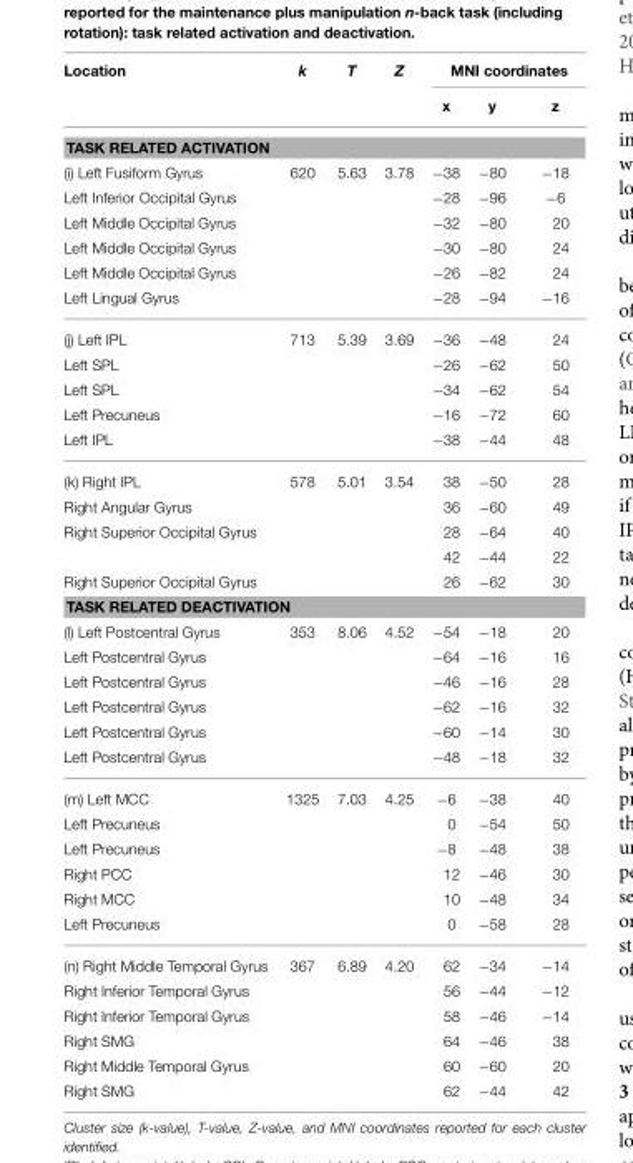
<table><thead><tr><td rowspan="2">Location</td><td rowspan="2">k</td><td rowspan="2">T</td><td rowspan="2">Z</td><td colspan="3">MNI coordinates</td></tr><tr><td>x</td><td>y</td><td>z</td></tr></thead><tbody><tr><td colspan="7">TASK RELATED ACTIVATION</td></tr><tr><td>(i) Left Fusiform Gyrus</td><td>620</td><td>5.63</td><td>3.78</td><td>−38</td><td>−80</td><td>−18</td></tr><tr><td>Left Inferior Occipital Gyrus</td><td></td><td></td><td></td><td>−28</td><td>−96</td><td>−6</td></tr><tr><td>Left Middle Occipital Gyrus</td><td></td><td></td><td></td><td>−32</td><td>−80</td><td>20</td></tr><tr><td>Left Middle Occipital Gyrus</td><td></td><td></td><td></td><td>−30</td><td>−80</td><td>24</td></tr><tr><td>Left Middle Occipital Gyrus</td><td></td><td></td><td></td><td>−26</td><td>−82</td><td>24</td></tr><tr><td>Left Lingual Gyrus</td><td></td><td></td><td></td><td>−28</td><td>−94</td><td>−16</td></tr><tr><td>(j) Left IPL</td><td>713</td><td>5.39</td><td>3.69</td><td>−36</td><td>−48</td><td>24</td></tr><tr><td>Left SPL</td><td></td><td></td><td></td><td>−26</td><td>−62</td><td>50</td></tr><tr><td>Left SPL</td><td></td><td></td><td></td><td>−34</td><td>−62</td><td>54</td></tr><tr><td>Left Precuneus</td><td></td><td></td><td></td><td>−16</td><td>−72</td><td>60</td></tr><tr><td>Left IPL</td><td></td><td></td><td></td><td>−38</td><td>−44</td><td>48</td></tr><tr><td>(k) Right IPL</td><td>578</td><td>5.01</td><td>3.54</td><td>38</td><td>−50</td><td>28</td></tr><tr><td>Right Angular Gyrus</td><td></td><td></td><td></td><td>36</td><td>−60</td><td>49</td></tr><tr><td rowspan="2">Right Superior Occipital Gyrus</td><td></td><td></td><td></td><td>28</td><td>−64</td><td>40</td></tr><tr><td></td><td></td><td></td><td>42</td><td>−44</td><td>22</td></tr><tr><td>Right Superior Occipital Gyrus</td><td></td><td></td><td></td><td>26</td><td>−62</td><td>30</td></tr><tr><td colspan="7">TASK RELATED DEACTIVATION</td></tr><tr><td>(l) Left Postcentral Gyrus</td><td>353</td><td>8.06</td><td>4.52</td><td>−54</td><td>−18</td><td>20</td></tr><tr><td>Left Postcentral Gyrus</td><td></td><td></td><td></td><td>−64</td><td>−16</td><td>16</td></tr><tr><td>Left Postcentral Gyrus</td><td></td><td></td><td></td><td>−46</td><td>−16</td><td>28</td></tr><tr><td>Left Postcentral Gyrus</td><td></td><td></td><td></td><td>−62</td><td>−16</td><td>32</td></tr><tr><td>Left Postcentral Gyrus</td><td></td><td></td><td></td><td>−60</td><td>−14</td><td>30</td></tr><tr><td>Left Postcentral Gyrus</td><td></td><td></td><td></td><td>−48</td><td>−18</td><td>32</td></tr><tr><td>(m) Left MCC</td><td>1325</td><td>7.03</td><td>4.25</td><td>−6</td><td>−38</td><td>40</td></tr><tr><td>Left Precuneus</td><td></td><td></td><td></td><td>0</td><td>−54</td><td>50</td></tr><tr><td>Left Precuneus</td><td></td><td></td><td></td><td>−8</td><td>−48</td><td>38</td></tr><tr><td>Right PCC</td><td></td><td></td><td></td><td>12</td><td>−46</td><td>30</td></tr><tr><td>Right MCC</td><td></td><td></td><td></td><td>10</td><td>−48</td><td>34</td></tr><tr><td>Left Precuneus</td><td></td><td></td><td></td><td>0</td><td>−58</td><td>28</td></tr><tr><td>(n) Right Middle Temporal Gyrus</td><td>367</td><td>6.89</td><td>4.20</td><td>62</td><td>−34</td><td>−14</td></tr><tr><td>Right Inferior Temporal Gyrus</td><td></td><td></td><td></td><td>56</td><td>−44</td><td>−12</td></tr><tr><td>Right Inferior Temporal Gyrus</td><td></td><td></td><td></td><td>58</td><td>−46</td><td>−14</td></tr><tr><td>Right SMG</td><td></td><td></td><td></td><td>64</td><td>−46</td><td>38</td></tr><tr><td>Right Middle Temporal Gyrus</td><td></td><td></td><td></td><td>60</td><td>−60</td><td>20</td></tr><tr><td>Right SMG</td><td></td><td></td><td></td><td>62</td><td>−44</td><td>42</td></tr></tbody></table>